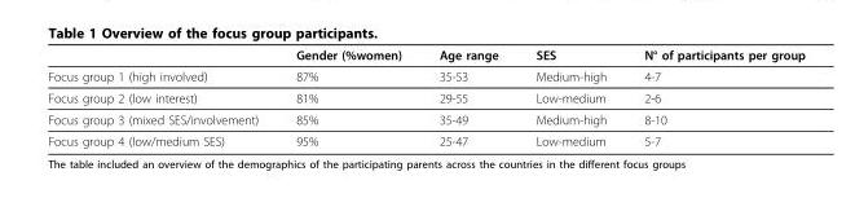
<table><thead><tr><td></td><td>Gender (%women)</td><td>Age range</td><td>SES</td><td>N° of participants per group</td></tr></thead><tbody><tr><td>Focus group 1 (high involved)</td><td>87%</td><td>35-53</td><td>Medium-high</td><td>4-7</td></tr><tr><td>Focus group 2 (low interest)</td><td>81%</td><td>29-55</td><td>Low-medium</td><td>2-6</td></tr><tr><td>Focus group 3 (mixed SES/involvement)</td><td>85%</td><td>35-49</td><td>Medium-high</td><td>8-10</td></tr><tr><td>Focus group 4 (low/medium SES)</td><td>95%</td><td>25-47</td><td>Low-medium</td><td>5-7</td></tr></tbody></table>